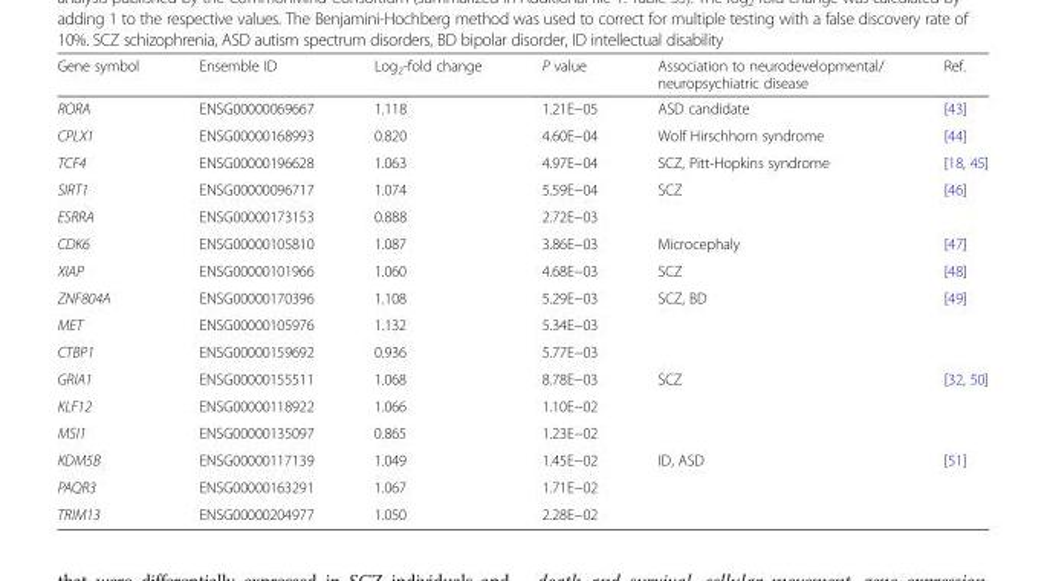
<table><thead><tr><td>Gene symbol</td><td>Ensemble ID</td><td>Log<sub>2</sub>-fold change</td><td>P value</td><td>Association to neurodevelopmental/ neuropsychiatric disease</td><td>Ref.</td></tr></thead><tbody><tr><td>RORA</td><td>ENSG00000069667</td><td>1.118</td><td>1.21E−05</td><td>ASD candidate</td><td>[43]</td></tr><tr><td>CPLX1</td><td>ENSG00000168993</td><td>0.820</td><td>4.60E−04</td><td>Wolf Hirschhorn syndrome</td><td>[44]</td></tr><tr><td>TCF4</td><td>ENSG00000196628</td><td>1.063</td><td>4.97E−04</td><td>SCZ, Pitt-Hopkins syndrome</td><td>[18, 45]</td></tr><tr><td>SIRT1</td><td>ENSG00000096717</td><td>1.074</td><td>5.59E−04</td><td>SCZ</td><td>[46]</td></tr><tr><td>ESRRA</td><td>ENSG00000173153</td><td>0.888</td><td>2.72E−03</td><td></td><td></td></tr><tr><td>CDK6</td><td>ENSG00000105810</td><td>1.087</td><td>3.86E−03</td><td>Microcephaly</td><td>[47]</td></tr><tr><td>XIAP</td><td>ENSG00000101966</td><td>1.060</td><td>4.68E−03</td><td>SCZ</td><td>[48]</td></tr><tr><td>ZNF804A</td><td>ENSG00000170396</td><td>1.108</td><td>5.29E−03</td><td>SCZ, BD</td><td>[49]</td></tr><tr><td>MET</td><td>ENSG00000105976</td><td>1.132</td><td>5.34E−03</td><td></td><td></td></tr><tr><td>CTBP1</td><td>ENSG00000159692</td><td>0.936</td><td>5.77E−03</td><td></td><td></td></tr><tr><td>GRIA1</td><td>ENSG00000155511</td><td>1.068</td><td>8.78E−03</td><td>SCZ</td><td>[32, 50]</td></tr><tr><td>KLF12</td><td>ENSG00000118922</td><td>1.066</td><td>1.10E−02</td><td></td><td></td></tr><tr><td>MSI1</td><td>ENSG00000135097</td><td>0.865</td><td>1.23E−02</td><td></td><td></td></tr><tr><td>KDM5B</td><td>ENSG00000117139</td><td>1.049</td><td>1.45E−02</td><td>ID, ASD</td><td>[51]</td></tr><tr><td>PAQR3</td><td>ENSG00000163291</td><td>1.067</td><td>1.71E−02</td><td></td><td></td></tr><tr><td>TRIM13</td><td>ENSG00000204977</td><td>1.050</td><td>2.28E−02</td><td></td><td></td></tr></tbody></table>